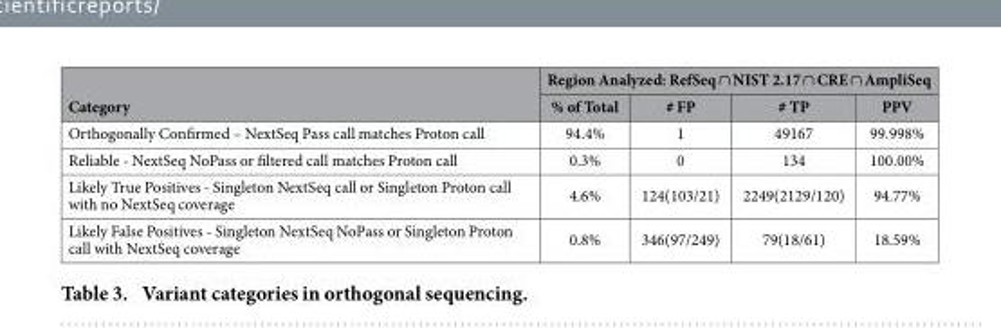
<table><thead><tr><td rowspan="2">Category</td><td colspan="4">Region Analyzed: RefSeq ∩ NIST 2.17 ∩ CRE ∩ AmpliSeq</td></tr><tr><td>% of Total</td><td># FP</td><td># TP</td><td>PPV</td></tr></thead><tbody><tr><td>Orthogonally Confirmed – NextSeq Pass call matches Proton call</td><td>94.4%</td><td>1</td><td>49167</td><td>99.998%</td></tr><tr><td>Reliable - NextSeq NoPass or filtered call matches Proton call</td><td>0.3%</td><td>0</td><td>134</td><td>100.00%</td></tr><tr><td>Likely True Positives - Singleton NextSeq call or Singleton Proton call with no NextSeq coverage</td><td>4.6%</td><td>124(103/21)</td><td>2249(2129/120)</td><td>94.77%</td></tr><tr><td>Likely False Positives - Singleton NextSeq NoPass or Singleton Proton call with NextSeq coverage</td><td>0.8%</td><td>346(97/249)</td><td>79(18/61)</td><td>18.59%</td></tr></tbody></table>